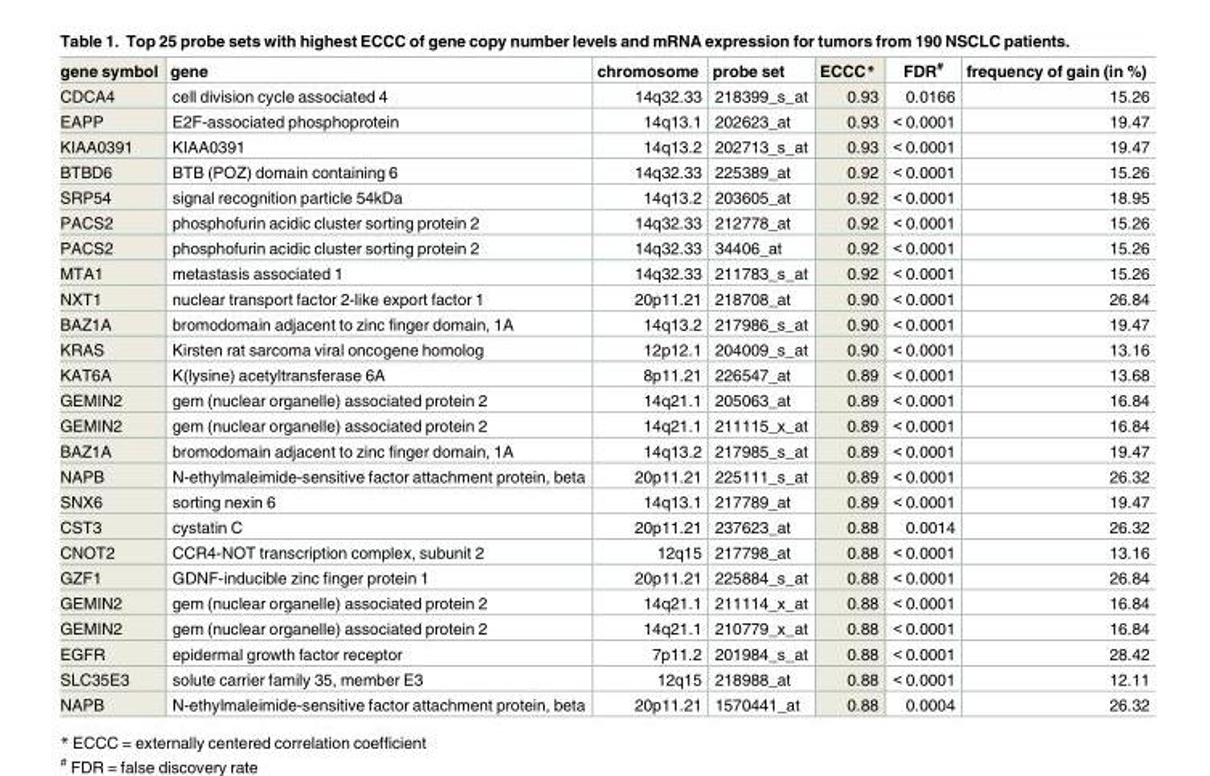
<table><thead><tr><td>gene symbol</td><td>gene</td><td>chromosome</td><td>probe set</td><td>ECCC*</td><td>FDR<sup>#</sup></td><td>frequency of gain (in %)</td></tr></thead><tbody><tr><td>CDCA4</td><td>cell division cycle associated 4</td><td>14q32.33</td><td>218399_s_at</td><td>0.93</td><td>0.0166</td><td>15.26</td></tr><tr><td>EAPP</td><td>E2F-associated phosphoprotein</td><td>14q13.1</td><td>202623_at</td><td>0.93</td><td>&lt; 0.0001</td><td>19.47</td></tr><tr><td>KIAA0391</td><td>KIAA0391</td><td>14q13.2</td><td>202713_s_at</td><td>0.93</td><td>&lt; 0.0001</td><td>19.47</td></tr><tr><td>BTBD6</td><td>BTB (POZ) domain containing 6</td><td>14q32.33</td><td>225389_at</td><td>0.92</td><td>&lt; 0.0001</td><td>15.26</td></tr><tr><td>SRP54</td><td>signal recognition particle 54kDa</td><td>14q13.2</td><td>203605_at</td><td>0.92</td><td>&lt; 0.0001</td><td>18.95</td></tr><tr><td>PACS2</td><td>phosphofurin acidic cluster sorting protein 2</td><td>14q32.33</td><td>212778_at</td><td>0.92</td><td>&lt; 0.0001</td><td>15.26</td></tr><tr><td>PACS2</td><td>phosphofurin acidic cluster sorting protein 2</td><td>14q32.33</td><td>34406_at</td><td>0.92</td><td>&lt; 0.0001</td><td>15.26</td></tr><tr><td>MTA1</td><td>metastasis associated 1</td><td>14q32.33</td><td>211783_s_at</td><td>0.92</td><td>&lt; 0.0001</td><td>15.26</td></tr><tr><td>NXT1</td><td>nuclear transport factor 2-like export factor 1</td><td>20p11.21</td><td>218708_at</td><td>0.90</td><td>&lt; 0.0001</td><td>26.84</td></tr><tr><td>BAZ1A</td><td>bromodomain adjacent to zinc finger domain, 1A</td><td>14q13.2</td><td>217986_s_at</td><td>0.90</td><td>&lt; 0.0001</td><td>19.47</td></tr><tr><td>KRAS</td><td>Kirsten rat sarcoma viral oncogene homolog</td><td>12p12.1</td><td>204009_s_at</td><td>0.90</td><td>&lt; 0.0001</td><td>13.16</td></tr><tr><td>KAT6A</td><td>K(lysine) acetyltransferase 6A</td><td>8p11.21</td><td>226547_at</td><td>0.89</td><td>&lt; 0.0001</td><td>13.68</td></tr><tr><td>GEMIN2</td><td>gem (nuclear organelle) associated protein 2</td><td>14q21.1</td><td>205063_at</td><td>0.89</td><td>&lt; 0.0001</td><td>16.84</td></tr><tr><td>GEMIN2</td><td>gem (nuclear organelle) associated protein 2</td><td>14q21.1</td><td>211115_x_at</td><td>0.89</td><td>&lt; 0.0001</td><td>16.84</td></tr><tr><td>BAZ1A</td><td>bromodomain adjacent to zinc finger domain, 1A</td><td>14q13.2</td><td>217985_s_at</td><td>0.89</td><td>&lt; 0.0001</td><td>19.47</td></tr><tr><td>NAPB</td><td>N-ethylmaleimide-sensitive factor attachment protein, beta</td><td>20p11.21</td><td>225111_s_at</td><td>0.89</td><td>&lt; 0.0001</td><td>26.32</td></tr><tr><td>SNX6</td><td>sorting nexin 6</td><td>14q13.1</td><td>217789_at</td><td>0.89</td><td>&lt; 0.0001</td><td>19.47</td></tr><tr><td>CST3</td><td>cystatin C</td><td>20p11.21</td><td>237623_at</td><td>0.88</td><td>0.0014</td><td>26.32</td></tr><tr><td>CNOT2</td><td>CCR4-NOT transcription complex, subunit 2</td><td>12q15</td><td>217798_at</td><td>0.88</td><td>&lt; 0.0001</td><td>13.16</td></tr><tr><td>GZF1</td><td>GDNF-inducible zinc finger protein 1</td><td>20p11.21</td><td>225884_s_at</td><td>0.88</td><td>&lt; 0.0001</td><td>26.84</td></tr><tr><td>GEMIN2</td><td>gem (nuclear organelle) associated protein 2</td><td>14q21.1</td><td>211114_x_at</td><td>0.88</td><td>&lt; 0.0001</td><td>16.84</td></tr><tr><td>GEMIN2</td><td>gem (nuclear organelle) associated protein 2</td><td>14q21.1</td><td>210779_x_at</td><td>0.88</td><td>&lt; 0.0001</td><td>16.84</td></tr><tr><td>EGFR</td><td>epidermal growth factor receptor</td><td>7p11.2</td><td>201984_s_at</td><td>0.88</td><td>&lt; 0.0001</td><td>28.42</td></tr><tr><td>SLC35E3</td><td>solute carrier family 35, member E3</td><td>12q15</td><td>218988_at</td><td>0.88</td><td>&lt; 0.0001</td><td>12.11</td></tr><tr><td>NAPB</td><td>N-ethylmaleimide-sensitive factor attachment protein, beta</td><td>20p11.21</td><td>1570441_at</td><td>0.88</td><td>0.0004</td><td>26.32</td></tr></tbody></table>